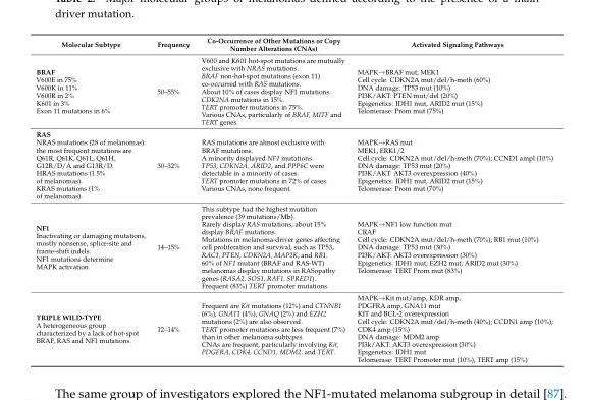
<table><thead><tr><td>Molecular Subtype</td><td>Frequency</td><td>Co-Occurrence of Other Mutations or Copy Number Alterations (CNAs)</td><td>Activated Signaling Pathways</td></tr></thead><tbody><tr><td>BRAF V600E in 75% V600K in 11% V600R in 2% K601 in 3% Exon 11 mutations in 6%</td><td>50–55%</td><td>V600 and K601 hot-spot mutations are mutually exclusive with NRAS mutations. BRAF non-hot-spot mutations (exon 11) co-occurred with RAS mutations. About 10% of cases display NF1 mutations. CDK2NA mutations in 15%. TERT promoter mutations in 75%. Various CNAs, particularly of BRAF, MITF and TERT genes.</td><td>MAPK→BRAF mut, MEK1 Cell cycle: CDKN2A mut/del/h-meth (60%) DNA damage: TP53 mut (10%) PI3K/AKT: PTEN mut/del (20%) Epigenetics: IDH1 mut, ARID2 mut (15%) Telomerase: Prom mut (75%)</td></tr><tr><td>RAS NRAS mutations (28 of melanomas): the most frequent mutations are Q61R, Q61K, Q61L, Q61H, G12R/D/A and G13R/D. HRAS mutations (1.5% of melanomas). KRAS mutations (1% of melanomas).</td><td>30–32%</td><td>RAS mutations are almost exclusive with BRAF mutations. A minority displayed NF1 mutations. TP53, CDKN2A, ARID2, and PPP6C were detectable in a minority of cases. TERT promoter mutations in 72% of cases. Various CNAs, none frequent.</td><td>MAPK→RAS mut MEK1, ERK1/2 Cell cycle: CDKN2A mut/del/h-meth (70%); CCND1 ampl (10%) DNA damage: TP53 mut (20%) PI3K/AKT: AKT3 overexpression (40%) Epigenetics: IDH1 mut, ARID2 mut (15%) Telomerase: Prom mut (70%)</td></tr><tr><td>NF1 Inactivating or damaging mutations, mostly nonsense, splice-site and frame-shift indels. NF1 mutations determine MAPK activation.</td><td>14–15%</td><td>This subtype had the highest mutation prevalence (39 mutations/Mb). Rarely display RAS mutations; about 15% display BRAF mutations. Mutations in melanoma-driver genes affecting cell proliferation and survival, such as TP53, RAC1, PTEN, CDKN2A, MAP2K, and RB1. 60% of NF1 mutant (BRAF and RAS-WT) melanomas display mutations in RASopathy genes (RASA2, SOS1, RAF1, SPRED1). Frequent (83%) TERT promoter mutations.</td><td>MAPK→NF1 low function mut CRAF Cell cycle: CDKN2A mut/del/h-meth (70%); RB1 mut (10%) DNA damage: TP53 mut (30%) PI3K/AKT: AKT3 overexpression (30%) Epigenetics: IDH1 mut; EZH2 mut; ARID2 mut (30%) Telomerase: TERT Prom mut (83%)</td></tr><tr><td>TRIPLE WILD-TYPE A heterogeneous group characterized by a lack of hot-spot BRAF, RAS and NF1 mutations.</td><td>12–14%</td><td>Frequent are Kit mutations (12%) and CTNNB1 (6%); GNA11 (4%), GNAQ (2%) and EZH2 mutations (2%) are also observed. TERT promoter mutations are less frequent (7%) than in other melanoma subtypes. CNAs are frequent, particularly involving Kit, PDGFRA, CDK4, CCND1, MDM2, and TERT.</td><td>MAPK→Kit mut/amp, KDR amp, PDGFRA amp, GNA11 mut KIT and BCL-2 overexpression Cell cycle: CDKN2A mut/del/h-meth (40%); CCDN1 amp (10%); CDK4 amp (15%) DNA damage: MDM2 amp PI3k/AKT: AKT3 overexpression (30%) Epigenetics: IDH1 mut Telomerase: TERT Promoter mut (10%), TERT amp (15%)</td></tr></tbody></table>